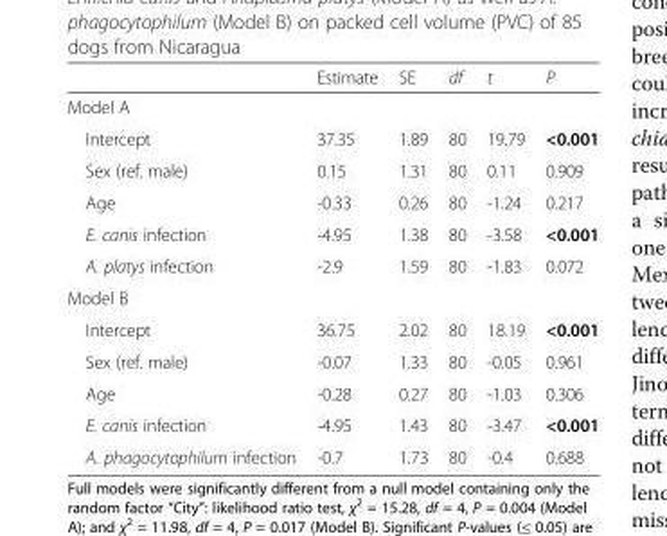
<table><thead><tr><td></td><td>Estimate</td><td>SE</td><td>df</td><td>t</td><td>P</td></tr></thead><tbody><tr><td colspan="6">Model A</td></tr><tr><td>Intercept</td><td>37.35</td><td>1.89</td><td>80</td><td>19.79</td><td>&lt;0.001</td></tr><tr><td>Sex (ref. male)</td><td>0.15</td><td>1.31</td><td>80</td><td>0.11</td><td>0.909</td></tr><tr><td>Age</td><td>-0.33</td><td>0.26</td><td>80</td><td>-1.24</td><td>0.217</td></tr><tr><td>E. canis infection</td><td>-4.95</td><td>1.38</td><td>80</td><td>-3.58</td><td>&lt;0.001</td></tr><tr><td>A. platys infection</td><td>-2.9</td><td>1.59</td><td>80</td><td>-1.83</td><td>0.072</td></tr><tr><td colspan="6">Model B</td></tr><tr><td>Intercept</td><td>36.75</td><td>2.02</td><td>80</td><td>18.19</td><td>&lt;0.001</td></tr><tr><td>Sex (ref. male)</td><td>-0.07</td><td>1.33</td><td>80</td><td>-0.05</td><td>0.961</td></tr><tr><td>Age</td><td>-0.28</td><td>0.27</td><td>80</td><td>-1.03</td><td>0.306</td></tr><tr><td>E. canis infection</td><td>-4.95</td><td>1.43</td><td>80</td><td>-3.47</td><td>&lt;0.001</td></tr><tr><td>A. phagocytophilum infection</td><td>-0.7</td><td>1.73</td><td>80</td><td>-0.4</td><td>0.688</td></tr></tbody></table>